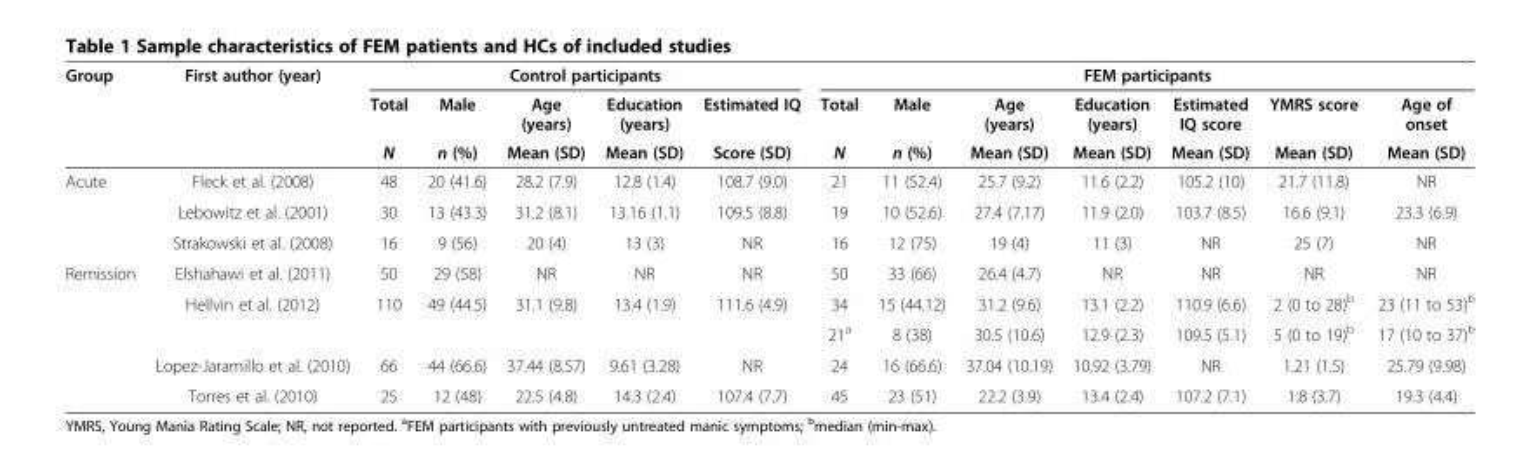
<table><thead><tr><td rowspan="3">Group</td><td rowspan="3">First author (year)</td><td colspan="5">Control participants</td><td colspan="7">FEM participants</td></tr><tr><td rowspan="2">Total N</td><td rowspan="2">Male n (%)</td><td rowspan="2">Age (years) Mean (SD)</td><td rowspan="2">Education (years) Mean (SD)</td><td rowspan="2">Estimated IQ Score (SD)</td><td rowspan="2">Total N</td><td rowspan="2">Male n (%)</td><td rowspan="2">Age (years) Mean (SD)</td><td rowspan="2">Education (years) Mean (SD)</td><td rowspan="2">Estimated IQ score Mean (SD)</td><td rowspan="2">YMRS score Mean (SD)</td><td rowspan="2">Age of onset Mean (SD)</td></tr><tr></tr></thead><tbody><tr><td rowspan="3">Acute</td><td>Fleck et al. (2008)</td><td>48</td><td>20 (41.6)</td><td>28.2 (7.9)</td><td>12.8 (1.4)</td><td>108.7 (9.0)</td><td>21</td><td>11 (52.4)</td><td>25.7 (9.2)</td><td>11.6 (2.2)</td><td>105.2 (10)</td><td>21.7 (11.8)</td><td>NR</td></tr><tr><td>Lebowitz et al. (2001)</td><td>30</td><td>13 (43.3)</td><td>31.2 (8.1)</td><td>13.16 (1.1)</td><td>109.5 (8.8)</td><td>19</td><td>10 (52.6)</td><td>27.4 (7.17)</td><td>11.9 (2.0)</td><td>103.7 (8.5)</td><td>16.6 (9.1)</td><td>23.3 (6.9)</td></tr><tr><td>Strakowski et al. (2008)</td><td>16</td><td>9 (56)</td><td>20 (4)</td><td>13 (3)</td><td>NR</td><td>16</td><td>12 (75)</td><td>19 (4)</td><td>11 (3)</td><td>NR</td><td>25 (7)</td><td>NR</td></tr><tr><td rowspan="5">Remission</td><td>Elshahawi et al. (2011)</td><td>50</td><td>29 (58)</td><td>NR</td><td>NR</td><td>NR</td><td>50</td><td>33 (66)</td><td>26.4 (4.7)</td><td>NR</td><td>NR</td><td>NR</td><td>NR</td></tr><tr><td rowspan="2">Hellvin et al. (2012)</td><td rowspan="2">110</td><td rowspan="2">49 (44.5)</td><td rowspan="2">31.1 (9.8)</td><td rowspan="2">13.4 (1.9)</td><td rowspan="2">111.6 (4.9)</td><td>34</td><td>15 (44.12)</td><td>31.2 (9.6)</td><td>13.1 (2.2)</td><td>110.9 (6.6)</td><td>2 (0 to 28)<sup>b</sup></td><td>23 (11 to 53)<sup>b</sup></td></tr><tr><td>21<sup>a</sup></td><td>8 (38)</td><td>30.5 (10.6)</td><td>12.9 (2.3)</td><td>109.5 (5.1)</td><td>5 (0 to 19)<sup>b</sup></td><td>17 (10 to 37)<sup>b</sup></td></tr><tr><td>Lopez-Jaramillo et al. (2010)</td><td>66</td><td>44 (66.6)</td><td>37.44 (8.57)</td><td>9.61 (3.28)</td><td>NR</td><td>24</td><td>16 (66.6)</td><td>37.04 (10.19)</td><td>10.92 (3.79)</td><td>NR</td><td>1.21 (1.5)</td><td>25.79 (9.98)</td></tr><tr><td>Torres et al. (2010)</td><td>25</td><td>12 (48)</td><td>22.5 (4.8)</td><td>14.3 (2.4)</td><td>107.4 (7.7)</td><td>45</td><td>23 (51)</td><td>22.2 (3.9)</td><td>13.4 (2.4)</td><td>107.2 (7.1)</td><td>1.8 (3.7)</td><td>19.3 (4.4)</td></tr></tbody></table>